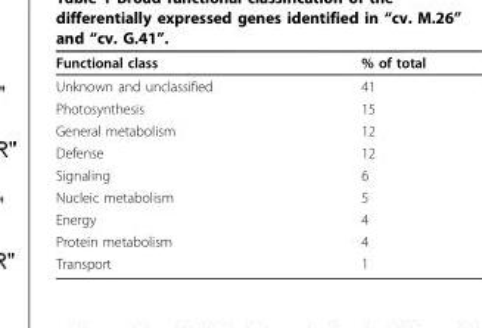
<table><thead><tr><td>Functional class</td><td>% of total</td></tr></thead><tbody><tr><td>Unknown and unclassified</td><td>41</td></tr><tr><td>Photosynthesis</td><td>15</td></tr><tr><td>General metabolism</td><td>12</td></tr><tr><td>Defense</td><td>12</td></tr><tr><td>Signaling</td><td>6</td></tr><tr><td>Nucleic metabolism</td><td>5</td></tr><tr><td>Energy</td><td>4</td></tr><tr><td>Protein metabolism</td><td>4</td></tr><tr><td>Transport</td><td>1</td></tr></tbody></table>